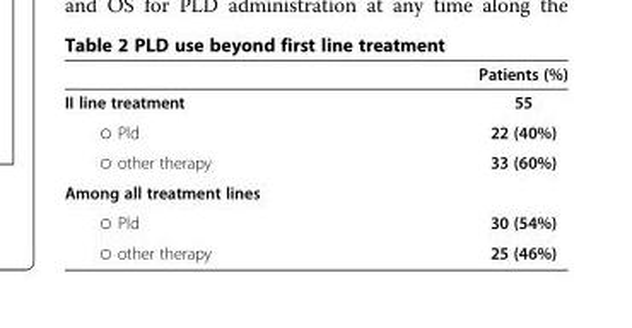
<table><thead><tr><td></td><td>Patients (%)</td></tr></thead><tbody><tr><td>II line treatment</td><td>55</td></tr><tr><td>○ Pld</td><td>22 (40%)</td></tr><tr><td>○ other therapy</td><td>33 (60%)</td></tr><tr><td colspan="2">Among all treatment lines</td></tr><tr><td>○ Pld</td><td>30 (54%)</td></tr><tr><td>○ other therapy</td><td>25 (46%)</td></tr></tbody></table>